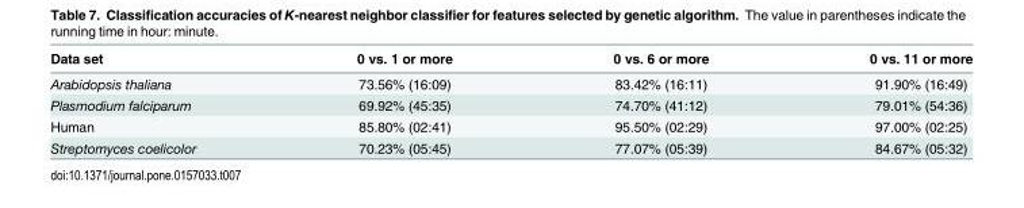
<table><thead><tr><td>Data set</td><td>0 vs. 1 or more</td><td>0 vs. 6 or more</td><td>0 vs. 11 or more</td></tr></thead><tbody><tr><td>Arabidopsis thaliana</td><td>73.56% (16:09)</td><td>83.42% (16:11)</td><td>91.90% (16:49)</td></tr><tr><td>Plasmodium falciparum</td><td>69.92% (45:35)</td><td>74.70% (41:12)</td><td>79.01% (54:36)</td></tr><tr><td>Human</td><td>85.80% (02:41)</td><td>95.50% (02:29)</td><td>97.00% (02:25)</td></tr><tr><td>Streptomyces coelicolor</td><td>70.23% (05:45)</td><td>77.07% (05:39)</td><td>84.67% (05:32)</td></tr></tbody></table>